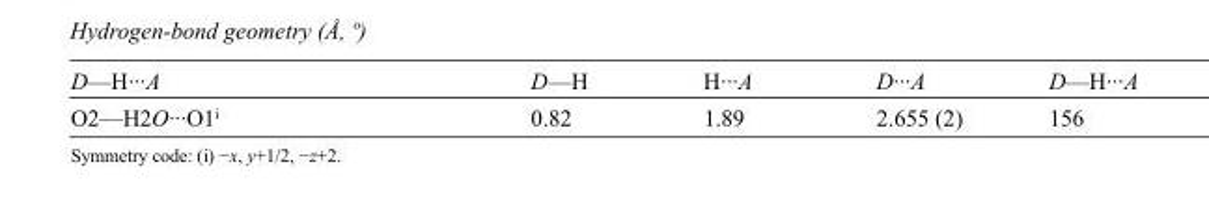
<table><tbody><tr><td>D—H···A</td><td>D—H</td><td>H···A</td><td>D···A</td><td>D—H···A</td></tr><tr><td>O2—H2O···O1<sup>i</sup></td><td>0.82</td><td>1.89</td><td>2.655 (2)</td><td>156</td></tr></tbody></table>